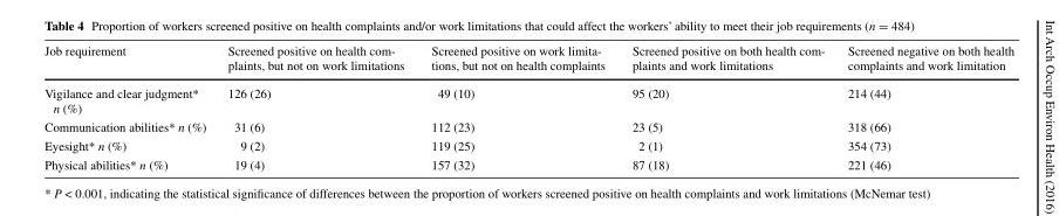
<table><thead><tr><td>Job requirement</td><td>Screened positive on health com- plaints, but not on work limitations</td><td>Screened positive on work limita- tions, but not on health complaints</td><td>Screened positive on both health com- plaints and work limitations</td><td>Screened negative on both health complaints and work limitation</td></tr></thead><tbody><tr><td>Vigilance and clear judgment* n (%)</td><td>126 (26)</td><td>49 (10)</td><td>95 (20)</td><td>214 (44)</td></tr><tr><td>Communication abilities* n (%)</td><td>31 (6)</td><td>112 (23)</td><td>23 (5)</td><td>318 (66)</td></tr><tr><td>Eyesight* n (%)</td><td>9 (2)</td><td>119 (25)</td><td>2 (1)</td><td>354 (73)</td></tr><tr><td>Physical abilities* n (%)</td><td>19 (4)</td><td>157 (32)</td><td>87 (18)</td><td>221 (46)</td></tr></tbody></table>